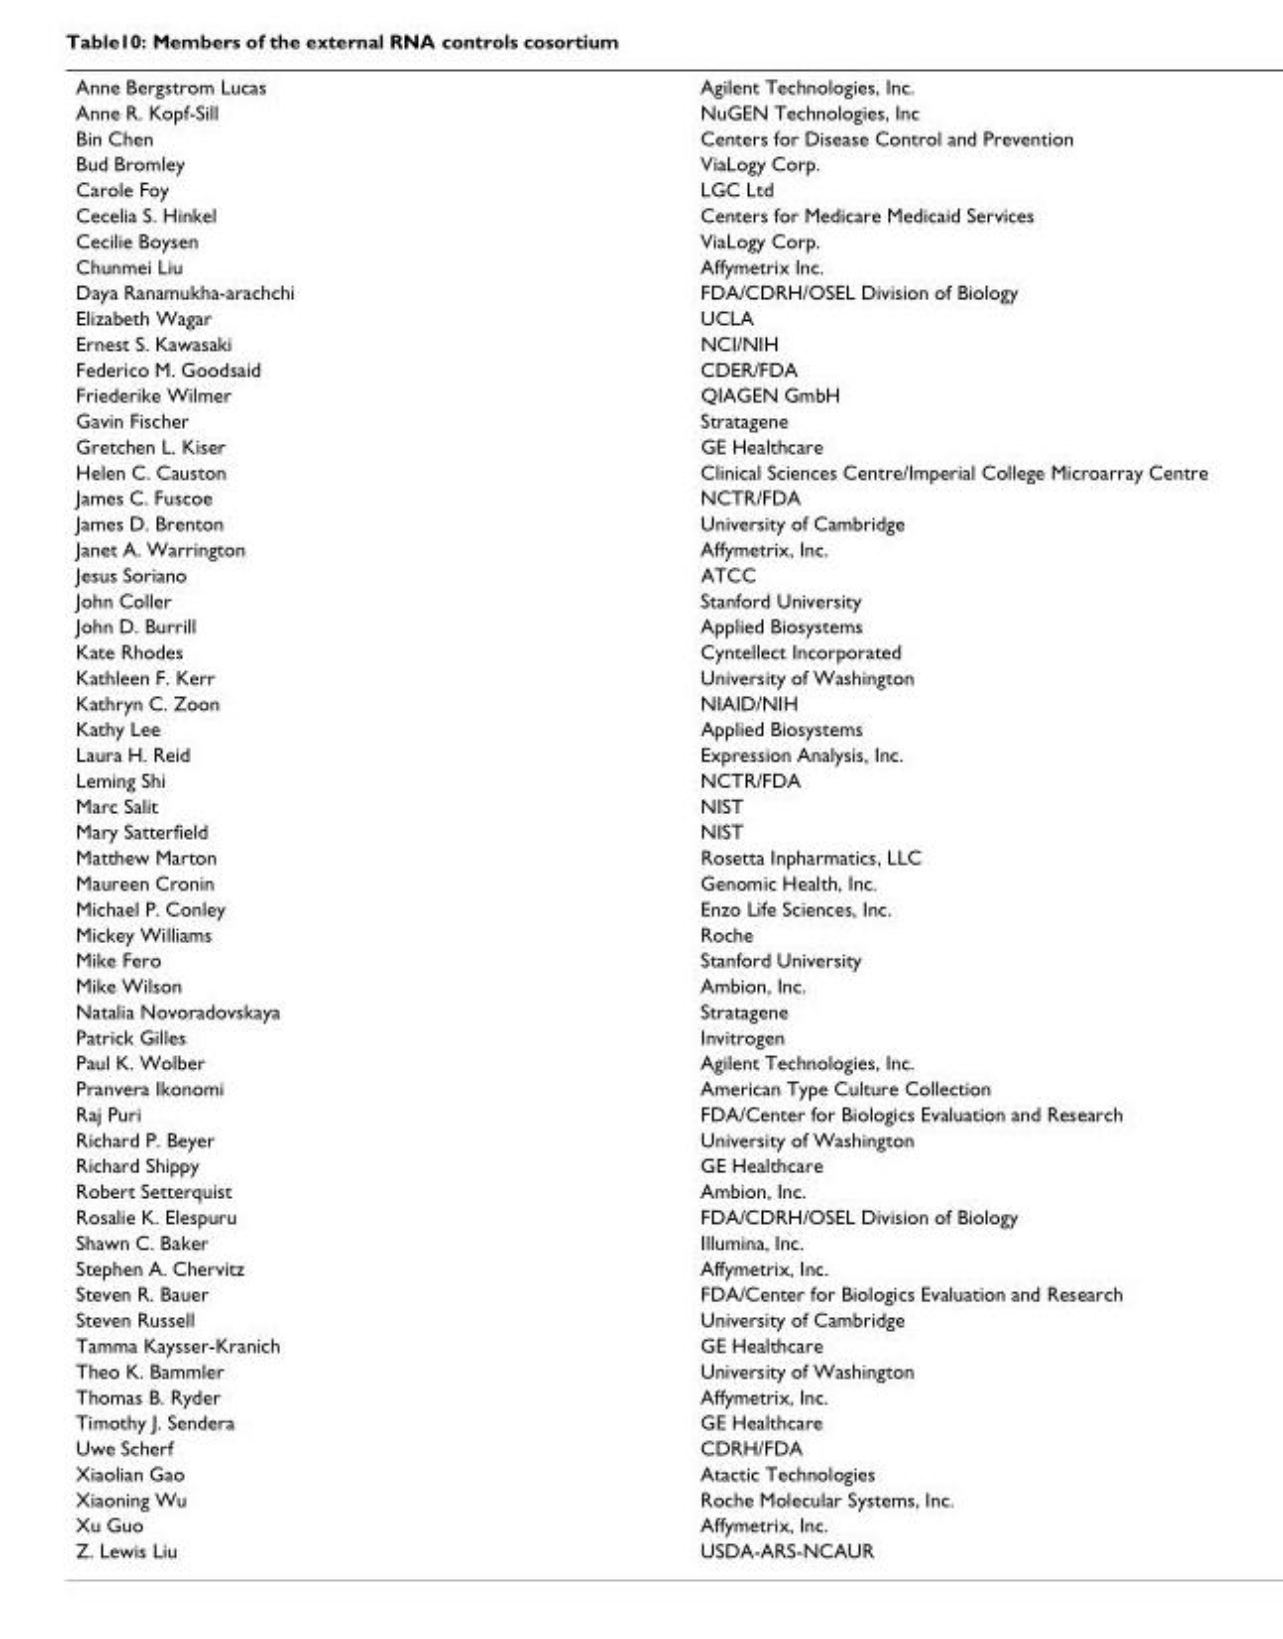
<table><tbody><tr><td>Anne Bergstrom Lucas</td><td>Agilent Technologies, Inc.</td></tr><tr><td>Anne R. Kopf-Sill</td><td>NuGEN Technologies, Inc</td></tr><tr><td>Bin Chen</td><td>Centers for Disease Control and Prevention</td></tr><tr><td>Bud Bromley</td><td>ViaLogy Corp.</td></tr><tr><td>Carole Foy</td><td>LGC Ltd</td></tr><tr><td>Cecelia S. Hinkel</td><td>Centers for Medicare Medicaid Services</td></tr><tr><td>Cecilie Boysen</td><td>ViaLogy Corp.</td></tr><tr><td>Chunmei Liu</td><td>Affymetrix Inc.</td></tr><tr><td>Daya Ranamukha-arachchi</td><td>FDA/CDRH/OSEL Division of Biology</td></tr><tr><td>Elizabeth Wagar</td><td>UCLA</td></tr><tr><td>Ernest S. Kawasaki</td><td>NCI/NIH</td></tr><tr><td>Federico M. Goodsaid</td><td>CDER/FDA</td></tr><tr><td>Friederike Wilmer</td><td>QIAGEN GmbH</td></tr><tr><td>Gavin Fischer</td><td>Stratagene</td></tr><tr><td>Gretchen L. Kiser</td><td>GE Healthcare</td></tr><tr><td>Helen C. Causton</td><td>Clinical Sciences Centre/Imperial College Microarray Centre</td></tr><tr><td>James C. Fuscoe</td><td>NCTR/FDA</td></tr><tr><td>James D. Brenton</td><td>University of Cambridge</td></tr><tr><td>Janet A. Warrington</td><td>Affymetrix, Inc.</td></tr><tr><td>Jesus Soriano</td><td>ATCC</td></tr><tr><td>John Coller</td><td>Stanford University</td></tr><tr><td>John D. Burrill</td><td>Applied Biosystems</td></tr><tr><td>Kate Rhodes</td><td>Cyntellect Incorporated</td></tr><tr><td>Kathleen F. Kerr</td><td>University of Washington</td></tr><tr><td>Kathryn C. Zoon</td><td>NIAID/NIH</td></tr><tr><td>Kathy Lee</td><td>Applied Biosystems</td></tr><tr><td>Laura H. Reid</td><td>Expression Analysis, Inc.</td></tr><tr><td>Leming Shi</td><td>NCTR/FDA</td></tr><tr><td>Marc Salit</td><td>NIST</td></tr><tr><td>Mary Satterfield</td><td>NIST</td></tr><tr><td>Matthew Marton</td><td>Rosetta Inpharmatics, LLC</td></tr><tr><td>Maureen Cronin</td><td>Genomic Health, Inc.</td></tr><tr><td>Michael P. Conley</td><td>Enzo Life Sciences, Inc.</td></tr><tr><td>Mickey Williams</td><td>Roche</td></tr><tr><td>Mike Fero</td><td>Stanford University</td></tr><tr><td>Mike Wilson</td><td>Ambion, Inc.</td></tr><tr><td>Natalia Novoradovskaya</td><td>Stratagene</td></tr><tr><td>Patrick Gilles</td><td>Invitrogen</td></tr><tr><td>Paul K. Wolber</td><td>Agilent Technologies, Inc.</td></tr><tr><td>Pranvera Ikonomi</td><td>American Type Culture Collection</td></tr><tr><td>Raj Puri</td><td>FDA/Center for Biologics Evaluation and Research</td></tr><tr><td>Richard P. Beyer</td><td>University of Washington</td></tr><tr><td>Richard Shippy</td><td>GE Healthcare</td></tr><tr><td>Robert Setterquist</td><td>Ambion, Inc.</td></tr><tr><td>Rosalie K. Elespuru</td><td>FDA/CDRH/OSEL Division of Biology</td></tr><tr><td>Shawn C. Baker</td><td>Illumina, Inc.</td></tr><tr><td>Stephen A. Chervitz</td><td>Affymetrix, Inc.</td></tr><tr><td>Steven R. Bauer</td><td>FDA/Center for Biologics Evaluation and Research</td></tr><tr><td>Steven Russell</td><td>University of Cambridge</td></tr><tr><td>Tamma Kaysser-Kranich</td><td>GE Healthcare</td></tr><tr><td>Theo K. Bammler</td><td>University of Washington</td></tr><tr><td>Thomas B. Ryder</td><td>Affymetrix, Inc.</td></tr><tr><td>Timothy J. Sendera</td><td>GE Healthcare</td></tr><tr><td>Uwe Scherf</td><td>CDRH/FDA</td></tr><tr><td>Xiaolian Gao</td><td>Atactic Technologies</td></tr><tr><td>Xiaoning Wu</td><td>Roche Molecular Systems, Inc.</td></tr><tr><td>Xu Guo</td><td>Affymetrix, Inc.</td></tr><tr><td>Z. Lewis Liu</td><td>USDA-ARS-NCAUR</td></tr></tbody></table>